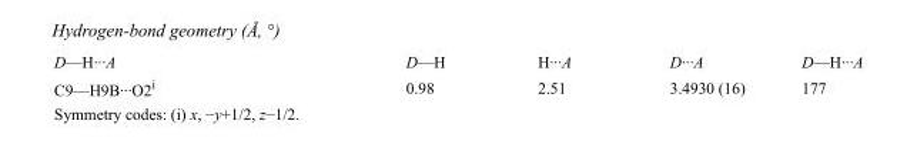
<table><tbody><tr><td>D—H···A</td><td>D—H</td><td>H···A</td><td>D···A</td><td>D—H···A</td></tr><tr><td>C9—H9B···O2<sup>i</sup></td><td>0.98</td><td>2.51</td><td>3.4930 (16)</td><td>177</td></tr></tbody></table>